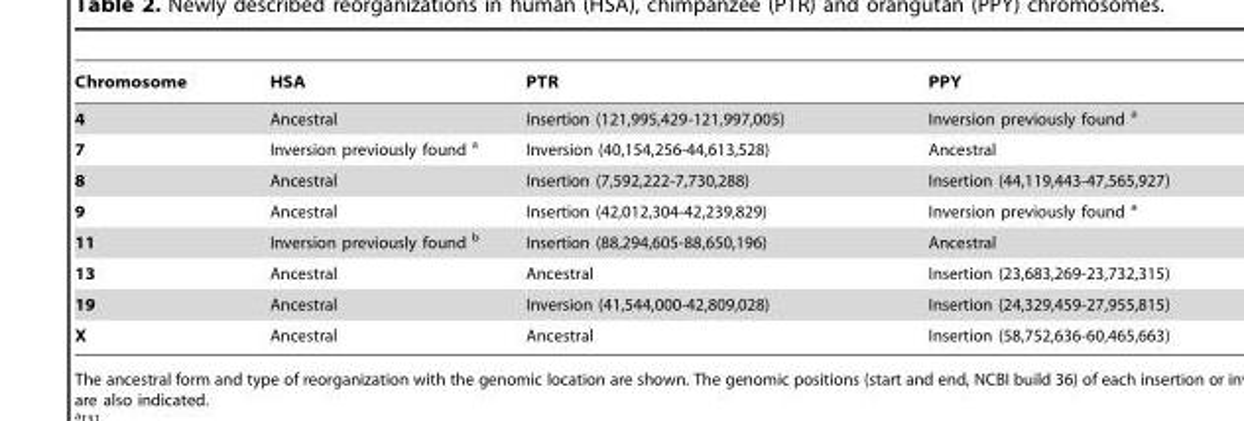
<table><thead><tr><td>Chromosome</td><td>HSA</td><td>PTR</td><td>PPY</td></tr></thead><tbody><tr><td>4</td><td>Ancestral</td><td>Insertion (121,995,429-121,997,005)</td><td>Inversion previously found a</td></tr><tr><td>7</td><td>Inversion previously found a</td><td>Inversion (40,154,256-44,613,528)</td><td>Ancestral</td></tr><tr><td>8</td><td>Ancestral</td><td>Insertion (7,592,222-7,730,288)</td><td>Insertion (44,119,443-47,565,927)</td></tr><tr><td>9</td><td>Ancestral</td><td>Insertion (42,012,304-42,239,829)</td><td>Inversion previously found a</td></tr><tr><td>11</td><td>Inversion previously found b</td><td>Insertion (88,294,605-88,650,196)</td><td>Ancestral</td></tr><tr><td>13</td><td>Ancestral</td><td>Ancestral</td><td>Insertion (23,683,269-23,732,315)</td></tr><tr><td>19</td><td>Ancestral</td><td>Inversion (41,544,000-42,809,028)</td><td>Insertion (24,329,459-27,955,815)</td></tr><tr><td>X</td><td>Ancestral</td><td>Ancestral</td><td>Insertion (58,752,636-60,465,663)</td></tr></tbody></table>